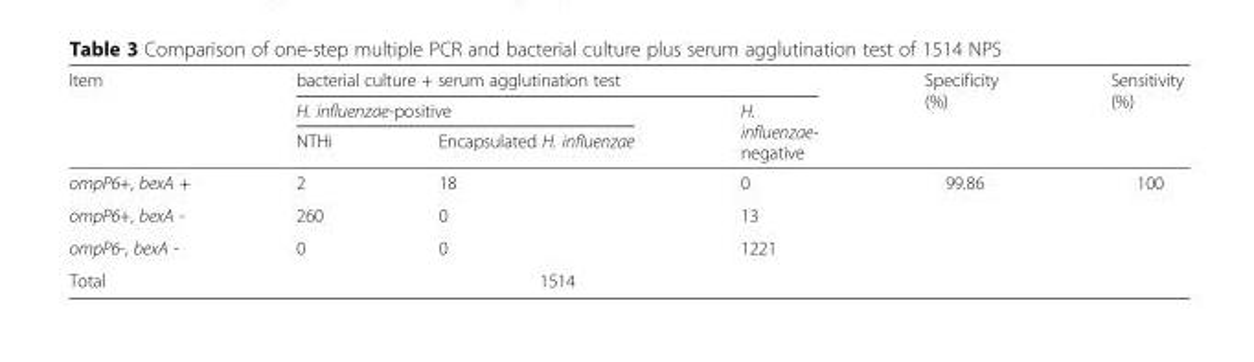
<table><thead><tr><td rowspan="3">Item</td><td colspan="3">bacterial culture + serum agglutination test</td><td rowspan="3">Specificity (%)</td><td rowspan="3">Sensitivity (%)</td></tr><tr><td colspan="2">H. influenzae-positive</td><td rowspan="2">H. influenzae- negative</td></tr><tr><td>NTHi</td><td>Encapsulated H. influenzae</td></tr></thead><tbody><tr><td>ompP6+, bexA +</td><td>2</td><td>18</td><td>0</td><td rowspan="3">99.86</td><td rowspan="3">100</td></tr><tr><td>ompP6+, bexA -</td><td>260</td><td>0</td><td>13</td></tr><tr><td>ompP6-, bexA -</td><td>0</td><td>0</td><td>1221</td></tr><tr><td>Total</td><td colspan="3">1514</td><td></td><td></td></tr></tbody></table>